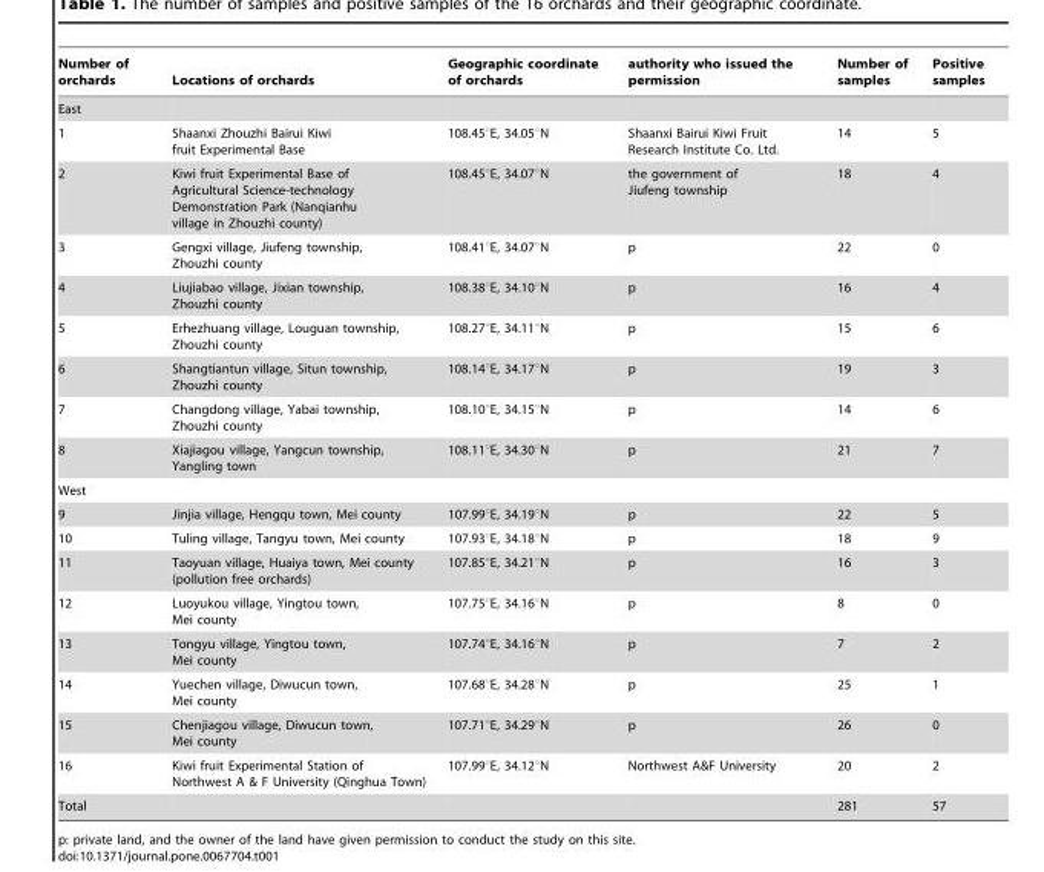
<table><thead><tr><td>Number of orchards</td><td>Locations of orchards</td><td>Geographic coordinate of orchards</td><td>authority who issued the permission</td><td>Number of samples</td><td>Positive samples</td></tr></thead><tbody><tr><td colspan="6">East</td></tr><tr><td>1</td><td>Shaanxi Zhouzhi Bairui Kiwi fruit Experimental Base</td><td>108.45°E, 34.05°N</td><td>Shaanxi Bairui Kiwi Fruit Research Institute Co. Ltd.</td><td>14</td><td>5</td></tr><tr><td>2</td><td>Kiwi fruit Experimental Base of Agricultural Science-technology Demonstration Park (Nanqianhu village in Zhouzhi county)</td><td>108.45°E, 34.07°N</td><td>the government of Jiufeng township</td><td>18</td><td>4</td></tr><tr><td>3</td><td>Gengxi village, Jiufeng township, Zhouzhi county</td><td>108.41°E, 34.07°N</td><td>p</td><td>22</td><td>0</td></tr><tr><td>4</td><td>Liujiabao village, Jixian township, Zhouzhi county</td><td>108.38°E, 34.10°N</td><td>p</td><td>16</td><td>4</td></tr><tr><td>5</td><td>Erhezhuang village, Louguan township, Zhouzhi county</td><td>108.27°E, 34.11°N</td><td>p</td><td>15</td><td>6</td></tr><tr><td>6</td><td>Shangtiantun village, Situn township, Zhouzhi county</td><td>108.14°E, 34.17°N</td><td>p</td><td>19</td><td>3</td></tr><tr><td>7</td><td>Changdong village, Yabai township, Zhouzhi county</td><td>108.10°E, 34.15°N</td><td>p</td><td>14</td><td>6</td></tr><tr><td>8</td><td>Xiajiagou village, Yangcun township, Yangling town</td><td>108.11°E, 34.30°N</td><td>p</td><td>21</td><td>7</td></tr><tr><td colspan="6">West</td></tr><tr><td>9</td><td>Jinjia village, Hengqu town, Mei county</td><td>107.99°E, 34.19°N</td><td>p</td><td>22</td><td>5</td></tr><tr><td>10</td><td>Tuling village, Tangyu town, Mei county</td><td>107.93°E, 34.18°N</td><td>p</td><td>18</td><td>9</td></tr><tr><td>11</td><td>Taoyuan village, Huaiya town, Mei county (pollution free orchards)</td><td>107.85°E, 34.21°N</td><td>p</td><td>16</td><td>3</td></tr><tr><td>12</td><td>Luoyukou village, Yingtou town, Mei county</td><td>107.75°E, 34.16°N</td><td>p</td><td>8</td><td>0</td></tr><tr><td>13</td><td>Tongyu village, Yingtou town, Mei county</td><td>107.74°E, 34.16°N</td><td>p</td><td>7</td><td>2</td></tr><tr><td>14</td><td>Yuechen village, Diwucun town, Mei county</td><td>107.68°E, 34.28°N</td><td>p</td><td>25</td><td>1</td></tr><tr><td>15</td><td>Chenjiagou village, Diwucun town, Mei county</td><td>107.71°E, 34.29°N</td><td>p</td><td>26</td><td>0</td></tr><tr><td>16</td><td>Kiwi fruit Experimental Station of Northwest A &amp; F University (Qinghua Town)</td><td>107.99°E, 34.12°N</td><td>Northwest A&amp;F University</td><td>20</td><td>2</td></tr><tr><td>Total</td><td></td><td></td><td></td><td>281</td><td>57</td></tr></tbody></table>